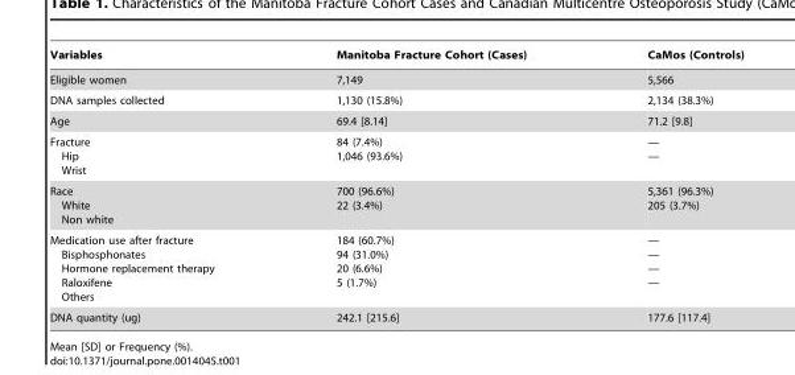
<table><thead><tr><td>Variables</td><td>Manitoba Fracture Cohort (Cases)</td><td>CaMos (Controls)</td></tr></thead><tbody><tr><td>Eligible women</td><td>7,149</td><td>5,566</td></tr><tr><td>DNA samples collected</td><td>1,130 (15.8%)</td><td>2,134 (38.3%)</td></tr><tr><td>Age</td><td>69.4 [8.14]</td><td>71.2 [9.8]</td></tr><tr><td>Fracture Hip Wrist</td><td>84 (7.4%) 1,046 (93.6%)</td><td>— —</td></tr><tr><td>Race White Non white</td><td>700 (96.6%) 22 (3.4%)</td><td>5,361 (96.3%) 205 (3.7%)</td></tr><tr><td>Medication use after fracture Bisphosphonates Hormone replacement therapy Raloxifene Others</td><td>184 (60.7%) 94 (31.0%) 20 (6.6%) 5 (1.7%)</td><td>— — — —</td></tr><tr><td>DNA quantity (ug)</td><td>242.1 [215.6]</td><td>177.6 [117.4]</td></tr></tbody></table>